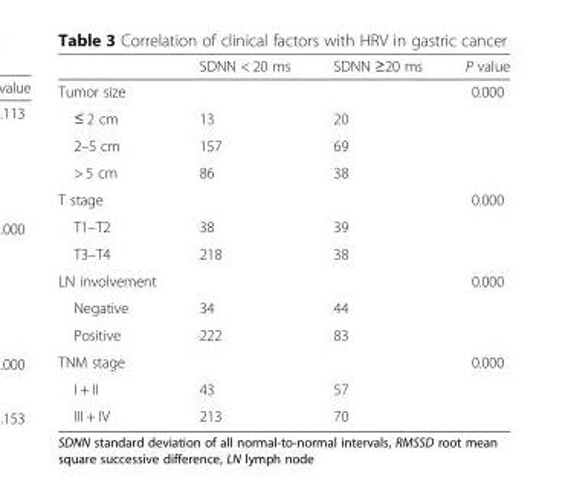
<table><thead><tr><td></td><td>SDNN &lt; 20 ms</td><td>SDNN ≥20 ms</td><td>P value</td></tr></thead><tbody><tr><td>Tumor size</td><td></td><td></td><td>0.000</td></tr><tr><td>≤ 2 cm</td><td>13</td><td>20</td><td></td></tr><tr><td>2–5 cm</td><td>157</td><td>69</td><td></td></tr><tr><td>&gt; 5 cm</td><td>86</td><td>38</td><td></td></tr><tr><td>T stage</td><td></td><td></td><td>0.000</td></tr><tr><td>T1–T2</td><td>38</td><td>39</td><td></td></tr><tr><td>T3–T4</td><td>218</td><td>38</td><td></td></tr><tr><td>LN involvement</td><td></td><td></td><td>0.000</td></tr><tr><td>Negative</td><td>34</td><td>44</td><td></td></tr><tr><td>Positive</td><td>222</td><td>83</td><td></td></tr><tr><td>TNM stage</td><td></td><td></td><td>0.000</td></tr><tr><td>I + II</td><td>43</td><td>57</td><td></td></tr><tr><td>III + IV</td><td>213</td><td>70</td><td></td></tr></tbody></table>